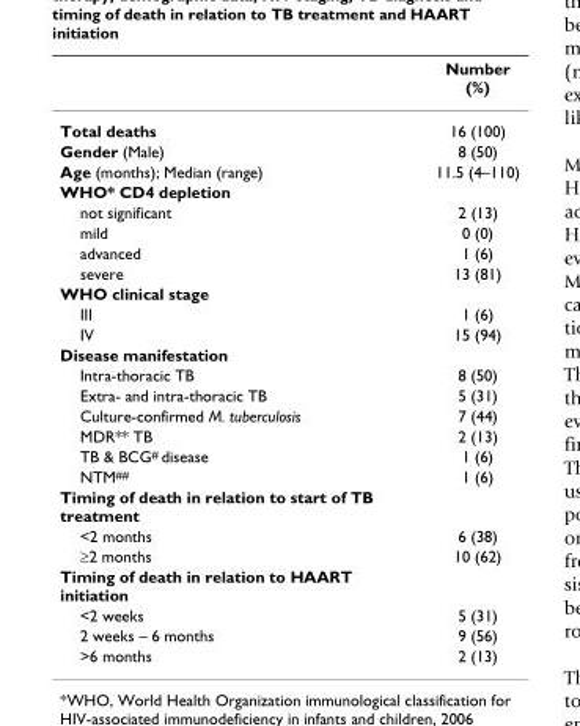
<table><thead><tr><td></td><td>Number (%)</td></tr></thead><tbody><tr><td>Total deaths</td><td>16 (100)</td></tr><tr><td>Gender (Male)</td><td>8 (50)</td></tr><tr><td>Age (months); Median (range)</td><td>11.5 (4–110)</td></tr><tr><td colspan="2">WHO* CD4 depletion</td></tr><tr><td>not significant</td><td>2 (13)</td></tr><tr><td>mild</td><td>0 (0)</td></tr><tr><td>advanced</td><td>1 (6)</td></tr><tr><td>severe</td><td>13 (81)</td></tr><tr><td colspan="2">WHO clinical stage</td></tr><tr><td>III</td><td>1 (6)</td></tr><tr><td>IV</td><td>15 (94)</td></tr><tr><td colspan="2">Disease manifestation</td></tr><tr><td>Intra-thoracic TB</td><td>8 (50)</td></tr><tr><td>Extra- and intra-thoracic TB</td><td>5 (31)</td></tr><tr><td>Culture-confirmed M. tuberculosis</td><td>7 (44)</td></tr><tr><td>MDR** TB</td><td>2 (13)</td></tr><tr><td>TB &amp; BCG<sup>#</sup> disease</td><td>1 (6)</td></tr><tr><td>NTM<sup>##</sup></td><td>1 (6)</td></tr><tr><td colspan="2">Timing of death in relation to start of TB treatment</td></tr><tr><td>&lt;2 months</td><td>6 (38)</td></tr><tr><td>≥2 months</td><td>10 (62)</td></tr><tr><td colspan="2">Timing of death in relation to HAART initiation</td></tr><tr><td>&lt;2 weeks</td><td>5 (31)</td></tr><tr><td>2 weeks – 6 months</td><td>9 (56)</td></tr><tr><td>&gt;6 months</td><td>2 (13)</td></tr></tbody></table>